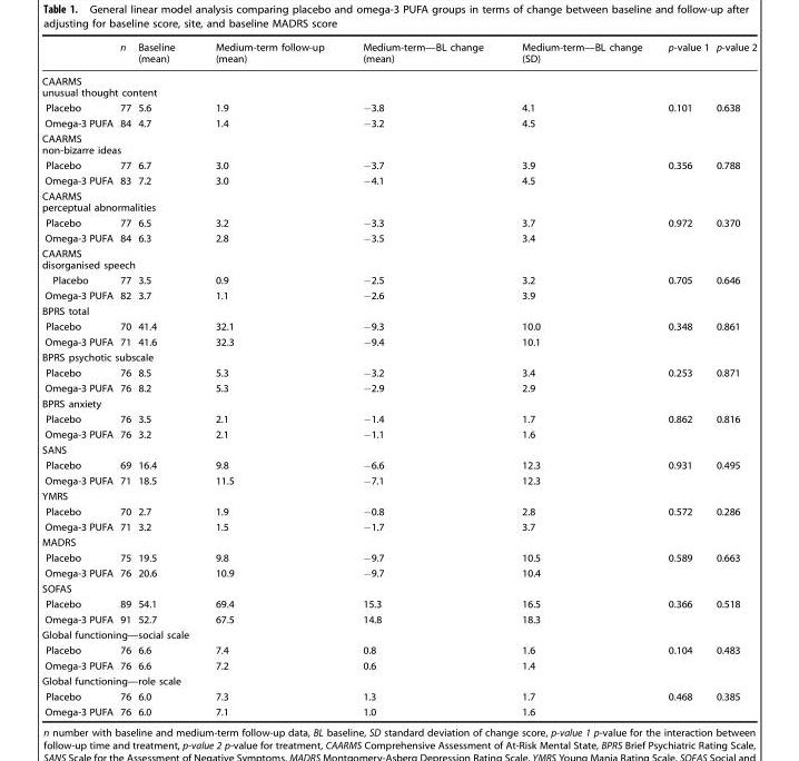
<table><thead><tr><td></td><td>n</td><td>Baseline (mean)</td><td>Medium-term follow-up (mean)</td><td>Medium-term—BL change (mean)</td><td>Medium-term—BL change (SD)</td><td>p-value 1</td><td>p-value 2</td></tr></thead><tbody><tr><td colspan="8">CAARMS unusual thought content</td></tr><tr><td>Placebo</td><td>77</td><td>5.6</td><td>1.9</td><td>−3.8</td><td>4.1</td><td>0.101</td><td>0.638</td></tr><tr><td>Omega-3 PUFA</td><td>84</td><td>4.7</td><td>1.4</td><td>−3.2</td><td>4.5</td><td></td><td></td></tr><tr><td colspan="8">CAARMS non-bizarre ideas</td></tr><tr><td>Placebo</td><td>77</td><td>6.7</td><td>3.0</td><td>−3.7</td><td>3.9</td><td>0.356</td><td>0.788</td></tr><tr><td>Omega-3 PUFA</td><td>83</td><td>7.2</td><td>3.0</td><td>−4.1</td><td>4.5</td><td></td><td></td></tr><tr><td colspan="8">CAARMS perceptual abnormalities</td></tr><tr><td>Placebo</td><td>77</td><td>6.5</td><td>3.2</td><td>−3.3</td><td>3.7</td><td>0.972</td><td>0.370</td></tr><tr><td>Omega-3 PUFA</td><td>84</td><td>6.3</td><td>2.8</td><td>−3.5</td><td>3.4</td><td></td><td></td></tr><tr><td colspan="8">CAARMS disorganised speech</td></tr><tr><td>Placebo</td><td>77</td><td>3.5</td><td>0.9</td><td>−2.5</td><td>3.2</td><td>0.705</td><td>0.646</td></tr><tr><td>Omega-3 PUFA</td><td>82</td><td>3.7</td><td>1.1</td><td>−2.6</td><td>3.9</td><td></td><td></td></tr><tr><td colspan="8">BPRS total</td></tr><tr><td>Placebo</td><td>70</td><td>41.4</td><td>32.1</td><td>−9.3</td><td>10.0</td><td>0.348</td><td>0.861</td></tr><tr><td>Omega-3 PUFA</td><td>71</td><td>41.6</td><td>32.3</td><td>−9.4</td><td>10.1</td><td></td><td></td></tr><tr><td colspan="8">BPRS psychotic subscale</td></tr><tr><td>Placebo</td><td>76</td><td>8.5</td><td>5.3</td><td>−3.2</td><td>3.4</td><td>0.253</td><td>0.871</td></tr><tr><td>Omega-3 PUFA</td><td>76</td><td>8.2</td><td>5.3</td><td>−2.9</td><td>2.9</td><td></td><td></td></tr><tr><td colspan="8">BPRS anxiety</td></tr><tr><td>Placebo</td><td>76</td><td>3.5</td><td>2.1</td><td>−1.4</td><td>1.7</td><td>0.862</td><td>0.816</td></tr><tr><td>Omega-3 PUFA</td><td>76</td><td>3.2</td><td>2.1</td><td>−1.1</td><td>1.6</td><td></td><td></td></tr><tr><td colspan="8">SANS</td></tr><tr><td>Placebo</td><td>69</td><td>16.4</td><td>9.8</td><td>−6.6</td><td>12.3</td><td>0.931</td><td>0.495</td></tr><tr><td>Omega-3 PUFA</td><td>71</td><td>18.5</td><td>11.5</td><td>−7.1</td><td>12.3</td><td></td><td></td></tr><tr><td colspan="8">YMRS</td></tr><tr><td>Placebo</td><td>70</td><td>2.7</td><td>1.9</td><td>−0.8</td><td>2.8</td><td>0.572</td><td>0.286</td></tr><tr><td>Omega-3 PUFA</td><td>71</td><td>3.2</td><td>1.5</td><td>−1.7</td><td>3.7</td><td></td><td></td></tr><tr><td colspan="8">MADRS</td></tr><tr><td>Placebo</td><td>75</td><td>19.5</td><td>9.8</td><td>−9.7</td><td>10.5</td><td>0.589</td><td>0.663</td></tr><tr><td>Omega-3 PUFA</td><td>76</td><td>20.6</td><td>10.9</td><td>−9.7</td><td>10.4</td><td></td><td></td></tr><tr><td colspan="8">SOFAS</td></tr><tr><td>Placebo</td><td>89</td><td>54.1</td><td>69.4</td><td>15.3</td><td>16.5</td><td>0.366</td><td>0.518</td></tr><tr><td>Omega-3 PUFA</td><td>91</td><td>52.7</td><td>67.5</td><td>14.8</td><td>18.3</td><td></td><td></td></tr><tr><td colspan="8">Global functioning—social scale</td></tr><tr><td>Placebo</td><td>76</td><td>6.6</td><td>7.4</td><td>0.8</td><td>1.6</td><td>0.104</td><td>0.483</td></tr><tr><td>Omega-3 PUFA</td><td>76</td><td>6.6</td><td>7.2</td><td>0.6</td><td>1.4</td><td></td><td></td></tr><tr><td colspan="8">Global functioning—role scale</td></tr><tr><td>Placebo</td><td>76</td><td>6.0</td><td>7.3</td><td>1.3</td><td>1.7</td><td>0.468</td><td>0.385</td></tr><tr><td>Omega-3 PUFA</td><td>76</td><td>6.0</td><td>7.1</td><td>1.0</td><td>1.6</td><td></td><td></td></tr></tbody></table>